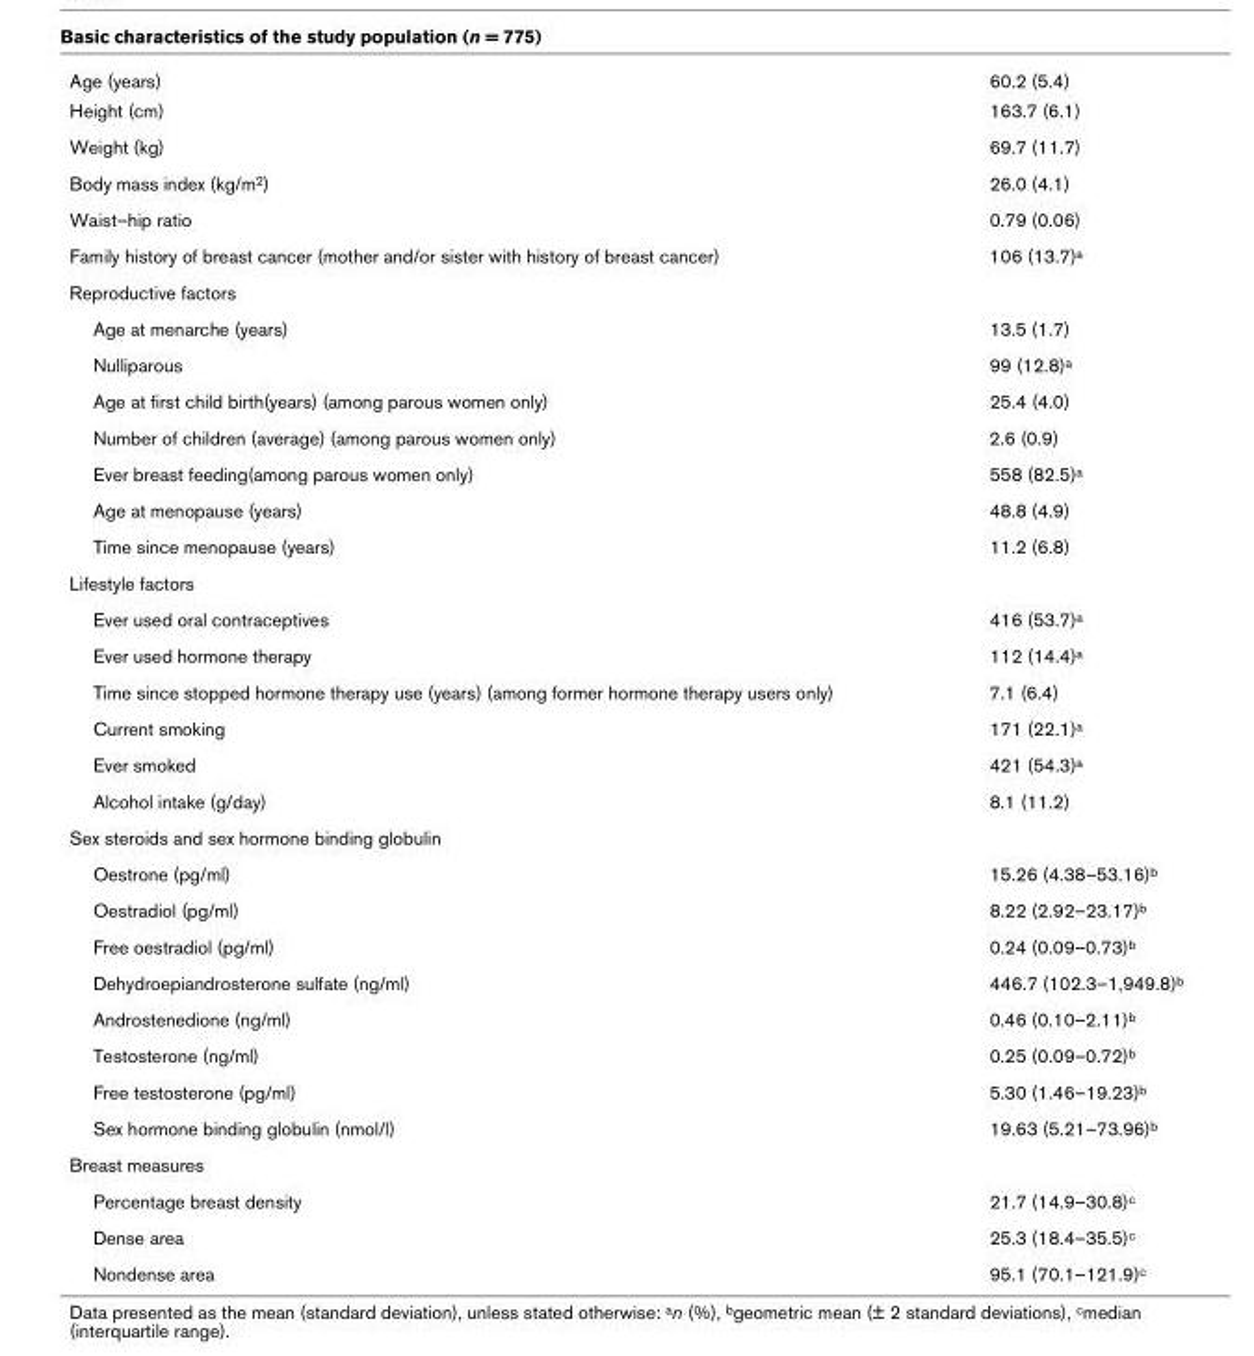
<table><tbody><tr><td>Age (years)</td><td>60.2 (5.4)</td></tr><tr><td>Height (cm)</td><td>163.7 (6.1)</td></tr><tr><td>Weight (kg)</td><td>69.7 (11.7)</td></tr><tr><td>Body mass index (kg/m<sup>2</sup>)</td><td>26.0 (4.1)</td></tr><tr><td>Waist–hip ratio</td><td>0.79 (0.06)</td></tr><tr><td>Family history of breast cancer (mother and/or sister with history of breast cancer)</td><td>106 (13.7)<sup>a</sup></td></tr><tr><td colspan="2">Reproductive factors</td></tr><tr><td>Age at menarche (years)</td><td>13.5 (1.7)</td></tr><tr><td>Nulliparous</td><td>99 (12.8)<sup>a</sup></td></tr><tr><td>Age at first child birth(years) (among parous women only)</td><td>25.4 (4.0)</td></tr><tr><td>Number of children (average) (among parous women only)</td><td>2.6 (0.9)</td></tr><tr><td>Ever breast feeding(among parous women only)</td><td>558 (82.5)<sup>a</sup></td></tr><tr><td>Age at menopause (years)</td><td>48.8 (4.9)</td></tr><tr><td>Time since menopause (years)</td><td>11.2 (6.8)</td></tr><tr><td colspan="2">Lifestyle factors</td></tr><tr><td>Ever used oral contraceptives</td><td>416 (53.7)<sup>a</sup></td></tr><tr><td>Ever used hormone therapy</td><td>112 (14.4)<sup>a</sup></td></tr><tr><td>Time since stopped hormone therapy use (years) (among former hormone therapy users only)</td><td>7.1 (6.4)</td></tr><tr><td>Current smoking</td><td>171 (22.1)<sup>a</sup></td></tr><tr><td>Ever smoked</td><td>421 (54.3)<sup>a</sup></td></tr><tr><td>Alcohol intake (g/day)</td><td>8.1 (11.2)</td></tr><tr><td colspan="2">Sex steroids and sex hormone binding globulin</td></tr><tr><td>Oestrone (pg/ml)</td><td>15.26 (4.38–53.16)<sup>b</sup></td></tr><tr><td>Oestradiol (pg/ml)</td><td>8.22 (2.92–23.17)<sup>b</sup></td></tr><tr><td>Free oestradiol (pg/ml)</td><td>0.24 (0.09–0.73)<sup>b</sup></td></tr><tr><td>Dehydroepiandrosterone sulfate (ng/ml)</td><td>446.7 (102.3–1,949.8)<sup>b</sup></td></tr><tr><td>Androstenedione (ng/ml)</td><td>0.46 (0.10–2.11)<sup>b</sup></td></tr><tr><td>Testosterone (ng/ml)</td><td>0.25 (0.09–0.72)<sup>b</sup></td></tr><tr><td>Free testosterone (pg/ml)</td><td>5.30 (1.46–19.23)<sup>b</sup></td></tr><tr><td>Sex hormone binding globulin (nmol/l)</td><td>19.63 (5.21–73.96)<sup>b</sup></td></tr><tr><td colspan="2">Breast measures</td></tr><tr><td>Percentage breast density</td><td>21.7 (14.9–30.8)<sup>c</sup></td></tr><tr><td>Dense area</td><td>25.3 (18.4–35.5)<sup>c</sup></td></tr><tr><td>Nondense area</td><td>95.1 (70.1–121.9)<sup>c</sup></td></tr></tbody></table>